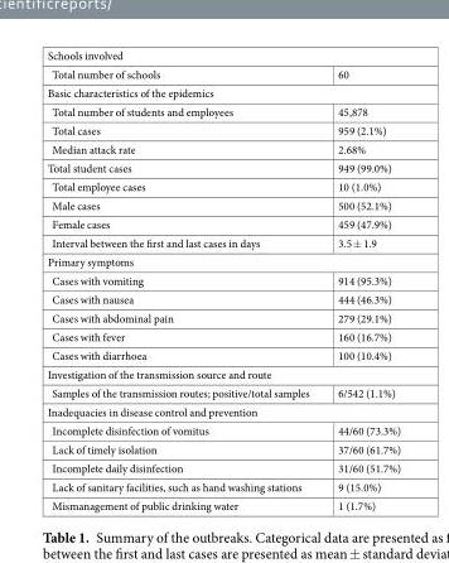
<table><tbody><tr><td colspan="2">Schools involved</td></tr><tr><td>Total number of schools</td><td>60</td></tr><tr><td colspan="2">Basic characteristics of the epidemics</td></tr><tr><td>Total number of students and employees</td><td>45,878</td></tr><tr><td>Total cases</td><td>959 (2.1%)</td></tr><tr><td>Median attack rate</td><td>2.68%</td></tr><tr><td>Total student cases</td><td>949 (99.0%)</td></tr><tr><td>Total employee cases</td><td>10 (1.0%)</td></tr><tr><td>Male cases</td><td>500 (52.1%)</td></tr><tr><td>Female cases</td><td>459 (47.9%)</td></tr><tr><td>Interval between the first and last cases in days</td><td>3.5 ± 1.9</td></tr><tr><td colspan="2">Primary symptoms</td></tr><tr><td>Cases with vomiting</td><td>914 (95.3%)</td></tr><tr><td>Cases with nausea</td><td>444 (46.3%)</td></tr><tr><td>Cases with abdominal pain</td><td>279 (29.1%)</td></tr><tr><td>Cases with fever</td><td>160 (16.7%)</td></tr><tr><td>Cases with diarrhoea</td><td>100 (10.4%)</td></tr><tr><td colspan="2">Investigation of the transmission source and route</td></tr><tr><td>Samples of the transmission routes; positive/total samples</td><td>6/542 (1.1%)</td></tr><tr><td colspan="2">Inadequacies in disease control and prevention</td></tr><tr><td>Incomplete disinfection of vomitus</td><td>44/60 (73.3%)</td></tr><tr><td>Lack of timely isolation</td><td>37/60 (61.7%)</td></tr><tr><td>Incomplete daily disinfection</td><td>31/60 (51.7%)</td></tr><tr><td>Lack of sanitary facilities, such as hand washing stations</td><td>9 (15.0%)</td></tr><tr><td>Mismanagement of public drinking water</td><td>1 (1.7%)</td></tr></tbody></table>